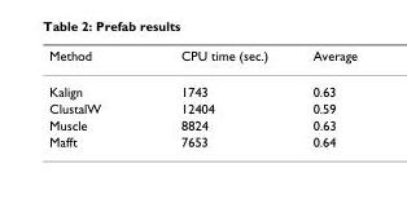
<table><thead><tr><td>Method</td><td>CPU time (sec.)</td><td>Average</td></tr></thead><tbody><tr><td>Kalign</td><td>1743</td><td>0.63</td></tr><tr><td>ClustalW</td><td>12404</td><td>0.59</td></tr><tr><td>Muscle</td><td>8824</td><td>0.63</td></tr><tr><td>Mafft</td><td>7653</td><td>0.64</td></tr></tbody></table>